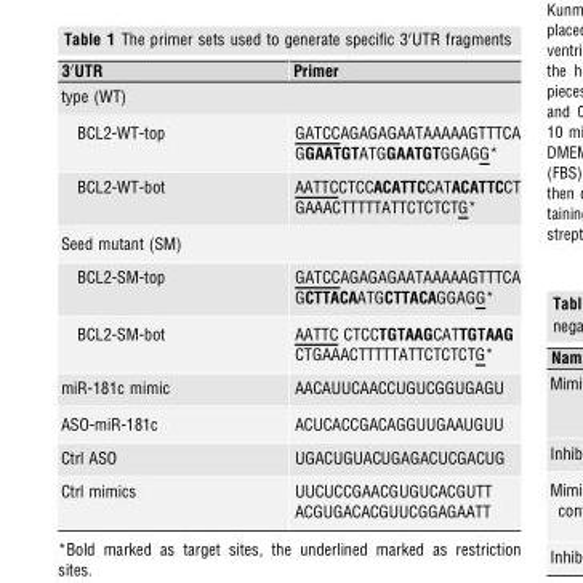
<table><thead><tr><td>3′UTR</td><td>Primer</td></tr></thead><tbody><tr><td colspan="2">type (WT)</td></tr><tr><td>BCL2-WT-top</td><td>GATCCAGAGAGAATAAAAAGTTTCA GGAATGTATGGAATGTGGAGG*</td></tr><tr><td>BCL2-WT-bot</td><td>AATTCCTCCACATTCCATACATTCCT GAAACTTTTTATTCTCTCTG*</td></tr><tr><td colspan="2">Seed mutant (SM)</td></tr><tr><td>BCL2-SM-top</td><td>GATCCAGAGAGAATAAAAAGTTTCA GCTTACAATGCTTACAGGAGG*</td></tr><tr><td>BCL2-SM-bot</td><td>AATTC CTCCTGTAAGCATTGTAAG CTGAAACTTTTTATTCTCTCTG*</td></tr><tr><td>miR-181c mimic</td><td>AACAUUCAACCUGUCGGUGAGU</td></tr><tr><td>ASO-miR-181c</td><td>ACUCACCGACAGGUUGAAUGUU</td></tr><tr><td>Ctrl ASO</td><td>UGACUGUACUGAGACUCGACUG</td></tr><tr><td rowspan="2">Ctrl mimics</td><td>UUCUCCGAACGUGUCACGUTT</td></tr><tr><td>ACGUGACACGUUCGGAGAATT</td></tr></tbody></table>